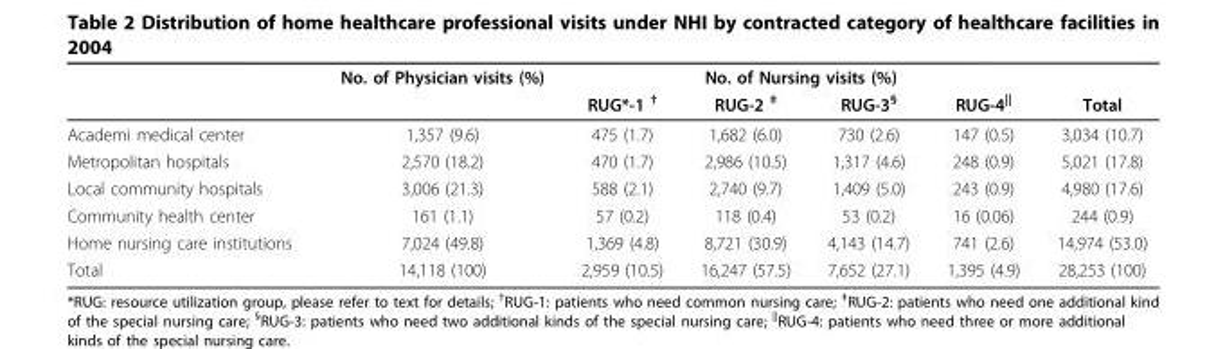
<table><thead><tr><td rowspan="2"></td><td rowspan="2">No. of Physician visits (%)</td><td colspan="4">No. of Nursing visits (%)</td><td rowspan="2">Total</td></tr><tr><td>RUG*-1 <sup>†</sup></td><td>RUG-2 <sup>‡</sup></td><td>RUG-3<sup>§</sup></td><td>RUG-4<sup>||</sup></td></tr></thead><tbody><tr><td>Academi medical center</td><td>1,357 (9.6)</td><td>475 (1.7)</td><td>1,682 (6.0)</td><td>730 (2.6)</td><td>147 (0.5)</td><td>3,034 (10.7)</td></tr><tr><td>Metropolitan hospitals</td><td>2,570 (18.2)</td><td>470 (1.7)</td><td>2,986 (10.5)</td><td>1,317 (4.6)</td><td>248 (0.9)</td><td>5,021 (17.8)</td></tr><tr><td>Local community hospitals</td><td>3,006 (21.3)</td><td>588 (2.1)</td><td>2,740 (9.7)</td><td>1,409 (5.0)</td><td>243 (0.9)</td><td>4,980 (17.6)</td></tr><tr><td>Community health center</td><td>161 (1.1)</td><td>57 (0.2)</td><td>118 (0.4)</td><td>53 (0.2)</td><td>16 (0.06)</td><td>244 (0.9)</td></tr><tr><td>Home nursing care institutions</td><td>7,024 (49.8)</td><td>1,369 (4.8)</td><td>8,721 (30.9)</td><td>4,143 (14.7)</td><td>741 (2.6)</td><td>14,974 (53.0)</td></tr><tr><td>Total</td><td>14,118 (100)</td><td>2,959 (10.5)</td><td>16,247 (57.5)</td><td>7,652 (27.1)</td><td>1,395 (4.9)</td><td>28,253 (100)</td></tr></tbody></table>